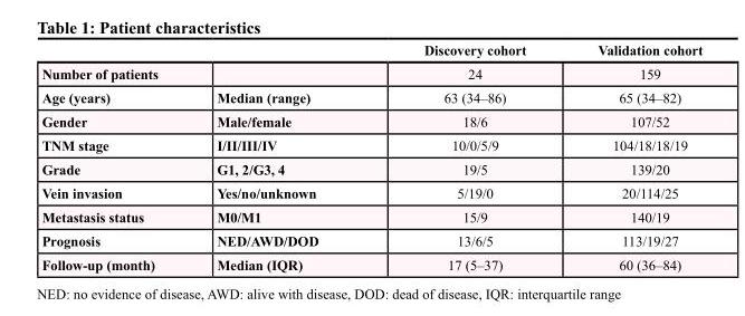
<table><thead><tr><td></td><td></td><td>Discovery cohort</td><td>Validation cohort</td></tr></thead><tbody><tr><td>Number of patients</td><td></td><td>24</td><td>159</td></tr><tr><td>Age (years)</td><td>Median (range)</td><td>63 (34–86)</td><td>65 (34–82)</td></tr><tr><td>Gender</td><td>Male/female</td><td>18/6</td><td>107/52</td></tr><tr><td>TNM stage</td><td>I/II/III/IV</td><td>10/0/5/9</td><td>104/18/18/19</td></tr><tr><td>Grade</td><td>G1, 2/G3, 4</td><td>19/5</td><td>139/20</td></tr><tr><td>Vein invasion</td><td>Yes/no/unknown</td><td>5/19/0</td><td>20/114/25</td></tr><tr><td>Metastasis status</td><td>M0/M1</td><td>15/9</td><td>140/19</td></tr><tr><td>Prognosis</td><td>NED/AWD/DOD</td><td>13/6/5</td><td>113/19/27</td></tr><tr><td>Follow-up (month)</td><td>Median (IQR)</td><td>17 (5–37)</td><td>60 (36–84)</td></tr></tbody></table>